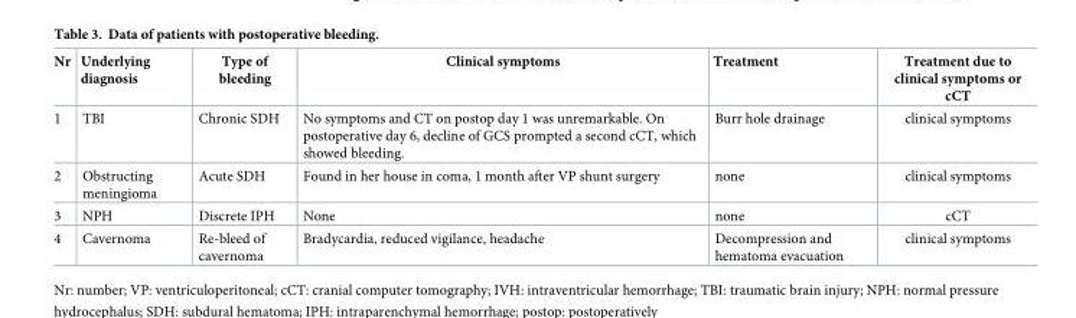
<table><thead><tr><td>Nr</td><td>Underlying diagnosis</td><td>Type of bleeding</td><td>Clinical symptoms</td><td>Treatment</td><td>Treatment due to clinical symptoms or cCT</td></tr></thead><tbody><tr><td>1</td><td>TBI</td><td>Chronic SDH</td><td>No symptoms and CT on postop day 1 was unremarkable. On postoperative day 6, decline of GCS prompted a second cCT, which showed bleeding.</td><td>Burr hole drainage</td><td>clinical symptoms</td></tr><tr><td>2</td><td>Obstructing meningioma</td><td>Acute SDH</td><td>Found in her house in coma, 1 month after VP shunt surgery</td><td>none</td><td>clinical symptoms</td></tr><tr><td>3</td><td>NPH</td><td>Discrete IPH</td><td>None</td><td>none</td><td>cCT</td></tr><tr><td>4</td><td>Cavernoma</td><td>Re-bleed of cavernoma</td><td>Bradycardia, reduced vigilance, headache</td><td>Decompression and hematoma evacuation</td><td>clinical symptoms</td></tr></tbody></table>